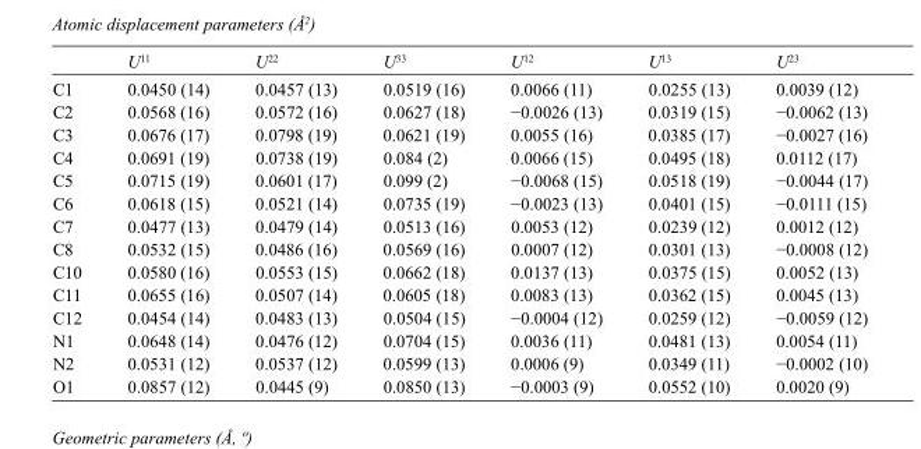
<table><thead><tr><td></td><td>U<sup>11</sup></td><td>U<sup>22</sup></td><td>U<sup>33</sup></td><td>U<sup>12</sup></td><td>U<sup>13</sup></td><td>U<sup>23</sup></td></tr></thead><tbody><tr><td>C1</td><td>0.0450 (14)</td><td>0.0457 (13)</td><td>0.0519 (16)</td><td>0.0066 (11)</td><td>0.0255 (13)</td><td>0.0039 (12)</td></tr><tr><td>C2</td><td>0.0568 (16)</td><td>0.0572 (16)</td><td>0.0627 (18)</td><td>−0.0026 (13)</td><td>0.0319 (15)</td><td>−0.0062 (13)</td></tr><tr><td>C3</td><td>0.0676 (17)</td><td>0.0798 (19)</td><td>0.0621 (19)</td><td>0.0055 (16)</td><td>0.0385 (17)</td><td>−0.0027 (16)</td></tr><tr><td>C4</td><td>0.0691 (19)</td><td>0.0738 (19)</td><td>0.084 (2)</td><td>0.0066 (15)</td><td>0.0495 (18)</td><td>0.0112 (17)</td></tr><tr><td>C5</td><td>0.0715 (19)</td><td>0.0601 (17)</td><td>0.099 (2)</td><td>−0.0068 (15)</td><td>0.0518 (19)</td><td>−0.0044 (17)</td></tr><tr><td>C6</td><td>0.0618 (15)</td><td>0.0521 (14)</td><td>0.0735 (19)</td><td>−0.0023 (13)</td><td>0.0401 (15)</td><td>−0.0111 (15)</td></tr><tr><td>C7</td><td>0.0477 (13)</td><td>0.0479 (14)</td><td>0.0513 (16)</td><td>0.0053 (12)</td><td>0.0239 (12)</td><td>0.0012 (12)</td></tr><tr><td>C8</td><td>0.0532 (15)</td><td>0.0486 (16)</td><td>0.0569 (16)</td><td>0.0007 (12)</td><td>0.0301 (13)</td><td>−0.0008 (12)</td></tr><tr><td>C10</td><td>0.0580 (16)</td><td>0.0553 (15)</td><td>0.0662 (18)</td><td>0.0137 (13)</td><td>0.0375 (15)</td><td>0.0052 (13)</td></tr><tr><td>C11</td><td>0.0655 (16)</td><td>0.0507 (14)</td><td>0.0605 (18)</td><td>0.0083 (13)</td><td>0.0362 (15)</td><td>0.0045 (13)</td></tr><tr><td>C12</td><td>0.0454 (14)</td><td>0.0483 (13)</td><td>0.0504 (15)</td><td>−0.0004 (12)</td><td>0.0259 (12)</td><td>−0.0059 (12)</td></tr><tr><td>N1</td><td>0.0648 (14)</td><td>0.0476 (12)</td><td>0.0704 (15)</td><td>0.0036 (11)</td><td>0.0481 (13)</td><td>0.0054 (11)</td></tr><tr><td>N2</td><td>0.0531 (12)</td><td>0.0537 (12)</td><td>0.0599 (13)</td><td>0.0006 (9)</td><td>0.0349 (11)</td><td>−0.0002 (10)</td></tr><tr><td>O1</td><td>0.0857 (12)</td><td>0.0445 (9)</td><td>0.0850 (13)</td><td>−0.0003 (9)</td><td>0.0552 (10)</td><td>0.0020 (9)</td></tr></tbody></table>